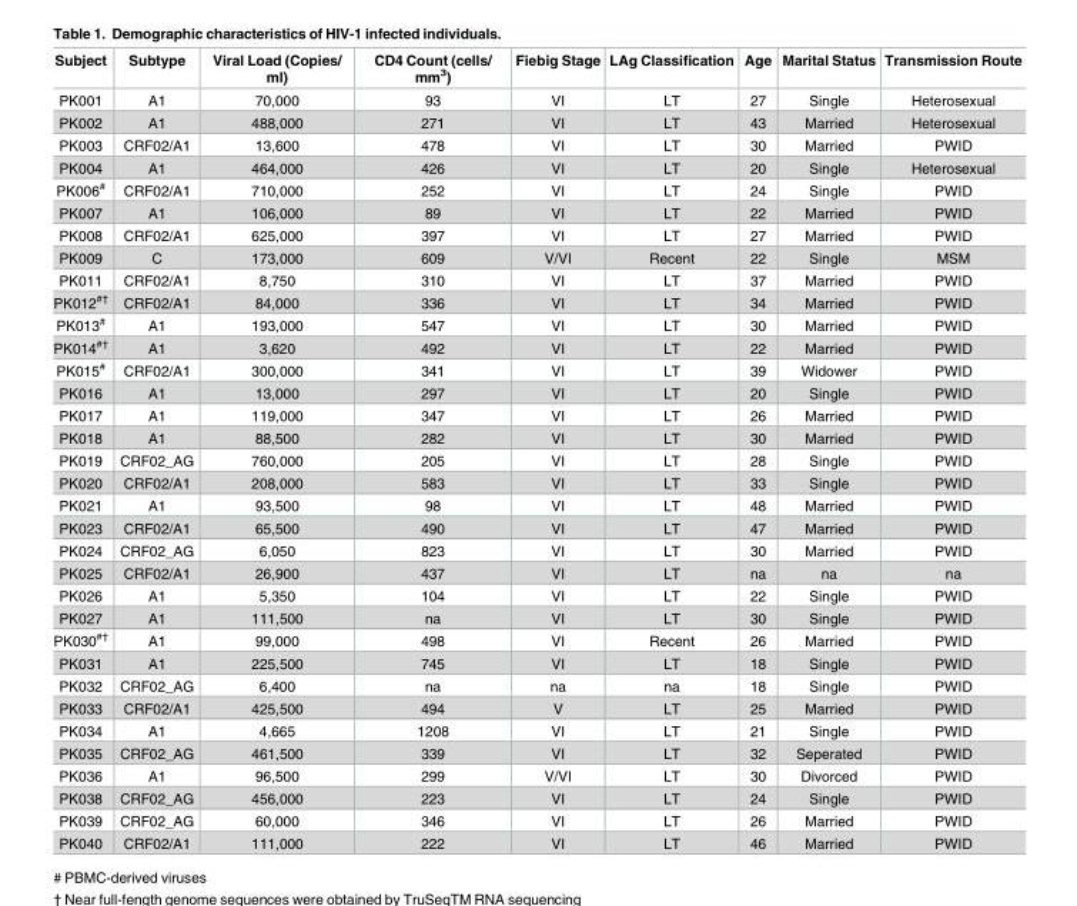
<table><thead><tr><td>Subject</td><td>Subtype</td><td>Viral Load (Copies/ ml)</td><td>CD4 Count (cells/ mm<sup>3</sup>)</td><td>Fiebig Stage</td><td>LAg Classification</td><td>Age</td><td>Marital Status</td><td>Transmission Route</td></tr></thead><tbody><tr><td>PK001</td><td>A1</td><td>70,000</td><td>93</td><td>VI</td><td>LT</td><td>27</td><td>Single</td><td>Heterosexual</td></tr><tr><td>PK002</td><td>A1</td><td>488,000</td><td>271</td><td>VI</td><td>LT</td><td>43</td><td>Married</td><td>Heterosexual</td></tr><tr><td>PK003</td><td>CRF02/A1</td><td>13,600</td><td>478</td><td>VI</td><td>LT</td><td>30</td><td>Married</td><td>PWID</td></tr><tr><td>PK004</td><td>A1</td><td>464,000</td><td>426</td><td>VI</td><td>LT</td><td>20</td><td>Single</td><td>Heterosexual</td></tr><tr><td>PK006<sup>#</sup></td><td>CRF02/A1</td><td>710,000</td><td>252</td><td>VI</td><td>LT</td><td>24</td><td>Single</td><td>PWID</td></tr><tr><td>PK007</td><td>A1</td><td>106,000</td><td>89</td><td>VI</td><td>LT</td><td>22</td><td>Married</td><td>PWID</td></tr><tr><td>PK008</td><td>CRF02/A1</td><td>625,000</td><td>397</td><td>VI</td><td>LT</td><td>27</td><td>Married</td><td>PWID</td></tr><tr><td>PK009</td><td>C</td><td>173,000</td><td>609</td><td>V/VI</td><td>Recent</td><td>22</td><td>Single</td><td>MSM</td></tr><tr><td>PK011</td><td>CRF02/A1</td><td>8,750</td><td>310</td><td>VI</td><td>LT</td><td>37</td><td>Married</td><td>PWID</td></tr><tr><td>PK012<sup>#†</sup></td><td>CRF02/A1</td><td>84,000</td><td>336</td><td>VI</td><td>LT</td><td>34</td><td>Married</td><td>PWID</td></tr><tr><td>PK013<sup>#</sup></td><td>A1</td><td>193,000</td><td>547</td><td>VI</td><td>LT</td><td>30</td><td>Married</td><td>PWID</td></tr><tr><td>PK014<sup>#†</sup></td><td>A1</td><td>3,620</td><td>492</td><td>VI</td><td>LT</td><td>22</td><td>Married</td><td>PWID</td></tr><tr><td>PK015<sup>#</sup></td><td>CRF02/A1</td><td>300,000</td><td>341</td><td>VI</td><td>LT</td><td>39</td><td>Widower</td><td>PWID</td></tr><tr><td>PK016</td><td>A1</td><td>13,000</td><td>297</td><td>VI</td><td>LT</td><td>20</td><td>Single</td><td>PWID</td></tr><tr><td>PK017</td><td>A1</td><td>119,000</td><td>347</td><td>VI</td><td>LT</td><td>26</td><td>Married</td><td>PWID</td></tr><tr><td>PK018</td><td>A1</td><td>88,500</td><td>282</td><td>VI</td><td>LT</td><td>30</td><td>Married</td><td>PWID</td></tr><tr><td>PK019</td><td>CRF02_AG</td><td>760,000</td><td>205</td><td>VI</td><td>LT</td><td>28</td><td>Single</td><td>PWID</td></tr><tr><td>PK020</td><td>CRF02/A1</td><td>208,000</td><td>583</td><td>VI</td><td>LT</td><td>33</td><td>Single</td><td>PWID</td></tr><tr><td>PK021</td><td>A1</td><td>93,500</td><td>98</td><td>VI</td><td>LT</td><td>48</td><td>Married</td><td>PWID</td></tr><tr><td>PK023</td><td>CRF02/A1</td><td>65,500</td><td>490</td><td>VI</td><td>LT</td><td>47</td><td>Married</td><td>PWID</td></tr><tr><td>PK024</td><td>CRF02_AG</td><td>6,050</td><td>823</td><td>VI</td><td>LT</td><td>30</td><td>Married</td><td>PWID</td></tr><tr><td>PK025</td><td>CRF02/A1</td><td>26,900</td><td>437</td><td>VI</td><td>LT</td><td>na</td><td>na</td><td>na</td></tr><tr><td>PK026</td><td>A1</td><td>5,350</td><td>104</td><td>VI</td><td>LT</td><td>22</td><td>Single</td><td>PWID</td></tr><tr><td>PK027</td><td>A1</td><td>111,500</td><td>na</td><td>VI</td><td>LT</td><td>30</td><td>Single</td><td>PWID</td></tr><tr><td>PK030<sup>#†</sup></td><td>A1</td><td>99,000</td><td>498</td><td>VI</td><td>Recent</td><td>26</td><td>Married</td><td>PWID</td></tr><tr><td>PK031</td><td>A1</td><td>225,500</td><td>745</td><td>VI</td><td>LT</td><td>18</td><td>Single</td><td>PWID</td></tr><tr><td>PK032</td><td>CRF02_AG</td><td>6,400</td><td>na</td><td>na</td><td>na</td><td>18</td><td>Single</td><td>PWID</td></tr><tr><td>PK033</td><td>CRF02/A1</td><td>425,500</td><td>494</td><td>V</td><td>LT</td><td>25</td><td>Married</td><td>PWID</td></tr><tr><td>PK034</td><td>A1</td><td>4,665</td><td>1208</td><td>VI</td><td>LT</td><td>21</td><td>Single</td><td>PWID</td></tr><tr><td>PK035</td><td>CRF02_AG</td><td>461,500</td><td>339</td><td>VI</td><td>LT</td><td>32</td><td>Seperated</td><td>PWID</td></tr><tr><td>PK036</td><td>A1</td><td>96,500</td><td>299</td><td>V/VI</td><td>LT</td><td>30</td><td>Divorced</td><td>PWID</td></tr><tr><td>PK038</td><td>CRF02_AG</td><td>456,000</td><td>223</td><td>VI</td><td>LT</td><td>24</td><td>Single</td><td>PWID</td></tr><tr><td>PK039</td><td>CRF02_AG</td><td>60,000</td><td>346</td><td>VI</td><td>LT</td><td>26</td><td>Married</td><td>PWID</td></tr><tr><td>PK040</td><td>CRF02/A1</td><td>111,000</td><td>222</td><td>VI</td><td>LT</td><td>46</td><td>Married</td><td>PWID</td></tr></tbody></table>